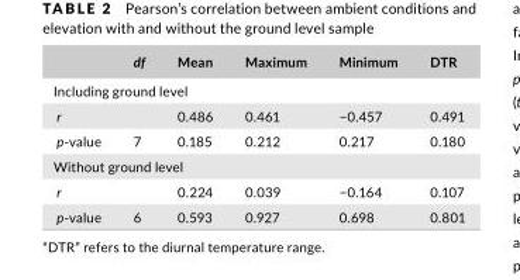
<table><thead><tr><td></td><td>df</td><td>Mean</td><td>Maximum</td><td>Minimum</td><td>DTR</td></tr></thead><tbody><tr><td colspan="6">Including ground level</td></tr><tr><td>r</td><td></td><td>0.486</td><td>0.461</td><td>−0.457</td><td>0.491</td></tr><tr><td>p- value</td><td>7</td><td>0.185</td><td>0.212</td><td>0.217</td><td>0.180</td></tr><tr><td colspan="6">Without ground level</td></tr><tr><td>r</td><td></td><td>0.224</td><td>0.039</td><td>−0.164</td><td>0.107</td></tr><tr><td>p- value</td><td>6</td><td>0.593</td><td>0.927</td><td>0.698</td><td>0.801</td></tr></tbody></table>